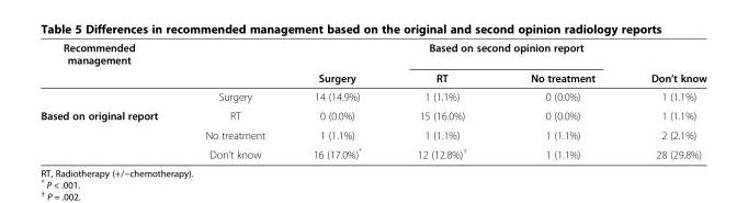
<table><thead><tr><td rowspan="2">Recommended management</td><td rowspan="2"></td><td rowspan="2">Surgery</td><td colspan="2">Based on second opinion report</td><td rowspan="2">Don’t know</td></tr><tr><td>RT</td><td>No treatment</td></tr></thead><tbody><tr><td></td><td>Surgery</td><td>14 (14.9%)</td><td>1 (1.1%)</td><td>0 (0.0%)</td><td>1 (1.1%)</td></tr><tr><td rowspan="3">Based on original report</td><td>RT</td><td>0 (0.0%)</td><td>15 (16.0%)</td><td>0 (0.0%)</td><td>1 (1.1%)</td></tr><tr><td>No treatment</td><td>1 (1.1%)</td><td>1 (1.1%)</td><td>1 (1.1%)</td><td>2 (2.1%)</td></tr><tr><td>Don’t know</td><td>16 (17.0%)*</td><td>12 (12.8%)<sup>†</sup></td><td>1 (1.1%)</td><td>28 (29.8%)</td></tr></tbody></table>